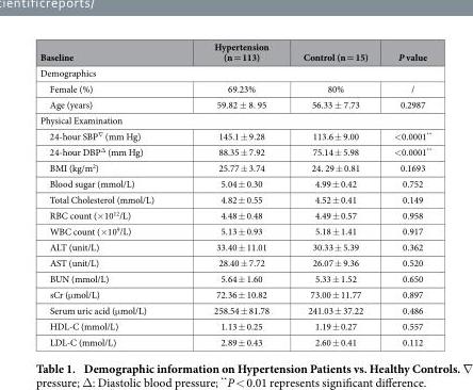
<table><thead><tr><td>Baseline</td><td>Hypertension (n = 113)</td><td>Control (n = 15)</td><td>P value</td></tr></thead><tbody><tr><td colspan="4">Demographics</td></tr><tr><td>Female (%)</td><td>69.23%</td><td>80%</td><td>/</td></tr><tr><td>Age (years)</td><td>59.82 ± 8. 95</td><td>56.33 ± 7.73</td><td>0.2987</td></tr><tr><td colspan="4">Physical Examination</td></tr><tr><td>24-hour SBP<sup>∇</sup> (mm Hg)</td><td>145.1 ± 9.28</td><td>113.6 ± 9.00</td><td>&lt; 0.0001**</td></tr><tr><td>24-hour DBP<sup>Δ</sup> (mm Hg)</td><td>88.35 ± 7.92</td><td>75.14 ± 5.98</td><td>&lt; 0.0001**</td></tr><tr><td>BMI (kg/m<sup>2</sup>)</td><td>25.77 ± 3.74</td><td>24. 29 ± 0.81</td><td>0.1693</td></tr><tr><td>Blood sugar (mmol/L)</td><td>5.04 ± 0.30</td><td>4.99 ± 0.42</td><td>0.752</td></tr><tr><td>Total Cholesterol (mmol/L)</td><td>4.82 ± 0.55</td><td>4.52 ± 0.41</td><td>0.149</td></tr><tr><td>RBC count (× 10<sup>12</sup>/L)</td><td>4.48 ± 0.48</td><td>4.49 ± 0.57</td><td>0.958</td></tr><tr><td>WBC count (× 10<sup>9</sup>/L)</td><td>5.13 ± 0.93</td><td>5.18 ± 1.41</td><td>0.917</td></tr><tr><td>ALT (unit/L)</td><td>33.40 ± 11.01</td><td>30.33 ± 5.39</td><td>0.362</td></tr><tr><td>AST (unit/L)</td><td>28.40 ± 7.72</td><td>26.07 ± 9.36</td><td>0.520</td></tr><tr><td>BUN (mmol/L)</td><td>5.64 ± 1.60</td><td>5.33 ± 1.52</td><td>0.650</td></tr><tr><td>sCr (μ mol/L)</td><td>72.36 ± 10.82</td><td>73.00 ± 11.77</td><td>0.897</td></tr><tr><td>Serum uric acid (μ mol/L)</td><td>258.54 ± 81.78</td><td>241.03 ± 37.22</td><td>0.486</td></tr><tr><td>HDL-C (mmol/L)</td><td>1.13 ± 0.25</td><td>1.19 ± 0.27</td><td>0.557</td></tr><tr><td>LDL-C (mmol/L)</td><td>2.89 ± 0.43</td><td>2.60 ± 0.41</td><td>0.112</td></tr></tbody></table>